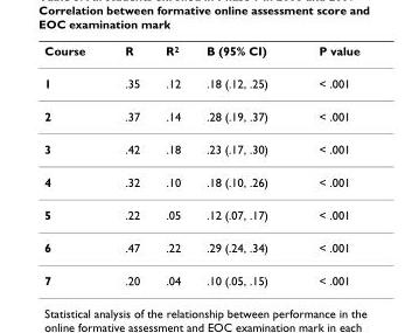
<table><thead><tr><td>Course</td><td>R</td><td>R<sup>2</sup></td><td>B (95% CI)</td><td>P value</td></tr></thead><tbody><tr><td>1</td><td>.35</td><td>.12</td><td>.18 (.12, .25)</td><td>&lt; .001</td></tr><tr><td>2</td><td>.37</td><td>.14</td><td>.28 (.19, .37)</td><td>&lt; .001</td></tr><tr><td>3</td><td>.42</td><td>.18</td><td>.23 (.17, .30)</td><td>&lt; .001</td></tr><tr><td>4</td><td>.32</td><td>.10</td><td>.18 (.10, .26)</td><td>&lt; .001</td></tr><tr><td>5</td><td>.22</td><td>.05</td><td>.12 (.07, .17)</td><td>&lt; .001</td></tr><tr><td>6</td><td>.47</td><td>.22</td><td>.29 (.24, .34)</td><td>&lt; .001</td></tr><tr><td>7</td><td>.20</td><td>.04</td><td>.10 (.05, .15)</td><td>&lt; .001</td></tr></tbody></table>